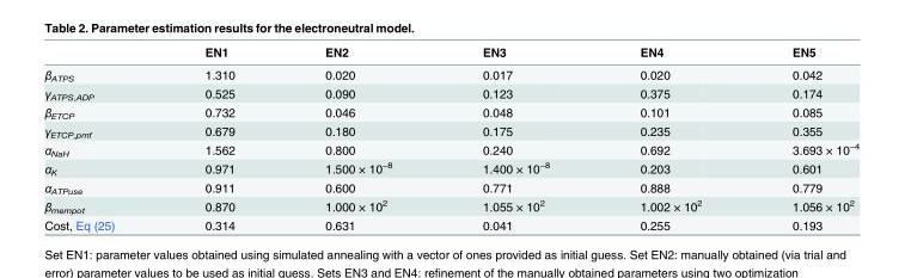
<table><thead><tr><td></td><td>EN1</td><td>EN2</td><td>EN3</td><td>EN4</td><td>EN5</td></tr></thead><tbody><tr><td>β<sub>ATPS</sub></td><td>1.310</td><td>0.020</td><td>0.017</td><td>0.020</td><td>0.042</td></tr><tr><td>γ<sub>ATPS,ADP</sub></td><td>0.525</td><td>0.090</td><td>0.123</td><td>0.375</td><td>0.174</td></tr><tr><td>β<sub>ETCP</sub></td><td>0.732</td><td>0.046</td><td>0.048</td><td>0.101</td><td>0.085</td></tr><tr><td>γ<sub>ETCP,pmf</sub></td><td>0.679</td><td>0.180</td><td>0.175</td><td>0.235</td><td>0.355</td></tr><tr><td>α<sub>NaH</sub></td><td>1.562</td><td>0.800</td><td>0.240</td><td>0.692</td><td>3.693 × 10<sup>−4</sup></td></tr><tr><td>α<sub>K</sub></td><td>0.971</td><td>1.500 × 10<sup>−8</sup></td><td>1.400 × 10<sup>−8</sup></td><td>0.203</td><td>0.601</td></tr><tr><td>α<sub>ATPuse</sub></td><td>0.911</td><td>0.600</td><td>0.771</td><td>0.888</td><td>0.779</td></tr><tr><td>β<sub>mempot</sub></td><td>0.870</td><td>1.000 × 10<sup>2</sup></td><td>1.055 × 10<sup>2</sup></td><td>1.002 × 10<sup>2</sup></td><td>1.056 × 10<sup>2</sup></td></tr><tr><td>Cost, Eq (25)</td><td>0.314</td><td>0.631</td><td>0.041</td><td>0.255</td><td>0.193</td></tr></tbody></table>